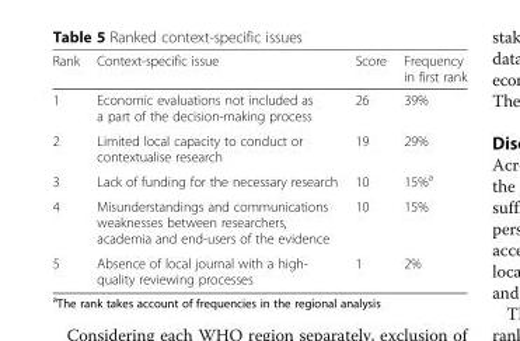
<table><thead><tr><td>Rank</td><td>Context-specific issue</td><td>Score</td><td>Frequency in first rank</td></tr></thead><tbody><tr><td>1</td><td>Economic evaluations not included as a part of the decision-making process</td><td>26</td><td>39%</td></tr><tr><td>2</td><td>Limited local capacity to conduct or contextualise research</td><td>19</td><td>29%</td></tr><tr><td>3</td><td>Lack of funding for the necessary research</td><td>10</td><td>15%<sup>a</sup></td></tr><tr><td>4</td><td>Misunderstandings and communications weaknesses between researchers, academia and end-users of the evidence</td><td>10</td><td>15%</td></tr><tr><td>5</td><td>Absence of local journal with a high- quality reviewing processes</td><td>1</td><td>2%</td></tr></tbody></table>